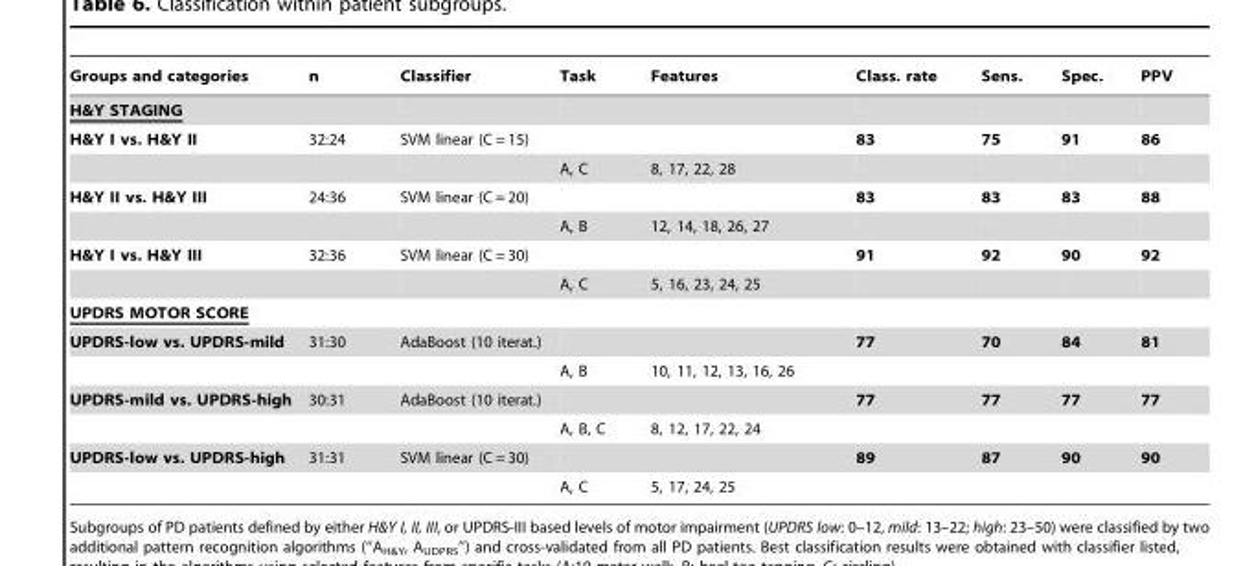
<table><thead><tr><td>Groups and categories</td><td>n</td><td>Classifier</td><td>Task</td><td>Features</td><td>Class. rate</td><td>Sens.</td><td>Spec.</td><td>PPV</td></tr></thead><tbody><tr><td colspan="9">H&amp;Y STAGING</td></tr><tr><td rowspan="2">H&amp;Y I vs. H&amp;Y II</td><td>32:24</td><td>SVM linear (C = 15)</td><td></td><td></td><td>83</td><td>75</td><td>91</td><td>86</td></tr><tr><td></td><td></td><td>A, C</td><td>8, 17, 22, 28</td><td></td><td></td><td></td><td></td></tr><tr><td rowspan="2">H&amp;Y II vs. H&amp;Y III</td><td>24:36</td><td>SVM linear (C = 20)</td><td></td><td></td><td>83</td><td>83</td><td>83</td><td>88</td></tr><tr><td></td><td></td><td>A, B</td><td>12, 14, 18, 26, 27</td><td></td><td></td><td></td><td></td></tr><tr><td rowspan="2">H&amp;Y I vs. H&amp;Y III</td><td>32:36</td><td>SVM linear (C = 30)</td><td></td><td></td><td>91</td><td>92</td><td>90</td><td>92</td></tr><tr><td></td><td></td><td>A, C</td><td>5, 16, 23, 24, 25</td><td></td><td></td><td></td><td></td></tr><tr><td colspan="9">UPDRS MOTOR SCORE</td></tr><tr><td rowspan="2">UPDRS-low vs. UPDRS-mild</td><td>31:30</td><td>AdaBoost (10 iterat.)</td><td></td><td></td><td>77</td><td>70</td><td>84</td><td>81</td></tr><tr><td></td><td></td><td>A, B</td><td>10, 11, 12, 13, 16, 26</td><td></td><td></td><td></td><td></td></tr><tr><td rowspan="2">UPDRS-mild vs. UPDRS-high</td><td>30:31</td><td>AdaBoost (10 iterat.)</td><td></td><td></td><td>77</td><td>77</td><td>77</td><td>77</td></tr><tr><td></td><td></td><td>A, B, C</td><td>8, 12, 17, 22, 24</td><td></td><td></td><td></td><td></td></tr><tr><td rowspan="2">UPDRS-low vs. UPDRS-high</td><td>31:31</td><td>SVM linear (C = 30)</td><td></td><td></td><td>89</td><td>87</td><td>90</td><td>90</td></tr><tr><td></td><td></td><td>A, C</td><td>5, 17, 24, 25</td><td></td><td></td><td></td><td></td></tr></tbody></table>